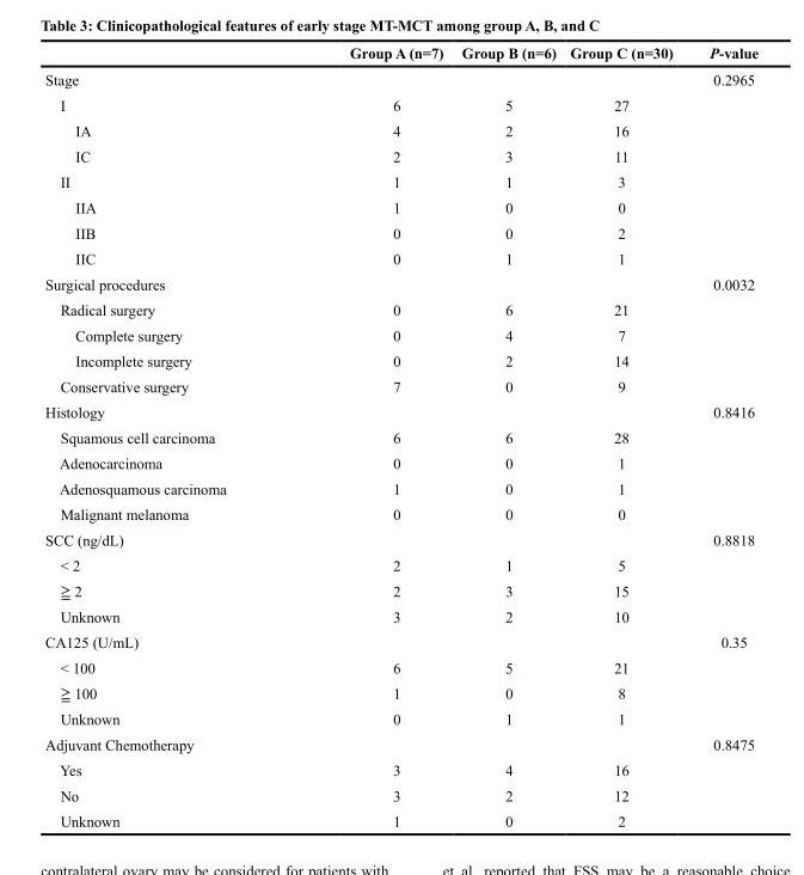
<table><thead><tr><td></td><td>Group A (n=7)</td><td>Group B (n=6)</td><td>Group C (n=30)</td><td>P-value</td></tr></thead><tbody><tr><td>Stage</td><td></td><td></td><td></td><td>0.2965</td></tr><tr><td>I</td><td>6</td><td>5</td><td>27</td><td></td></tr><tr><td>IA</td><td>4</td><td>2</td><td>16</td><td></td></tr><tr><td>IC</td><td>2</td><td>3</td><td>11</td><td></td></tr><tr><td>II</td><td>1</td><td>1</td><td>3</td><td></td></tr><tr><td>IIA</td><td>1</td><td>0</td><td>0</td><td></td></tr><tr><td>IIB</td><td>0</td><td>0</td><td>2</td><td></td></tr><tr><td>IIC</td><td>0</td><td>1</td><td>1</td><td></td></tr><tr><td>Surgical procedures</td><td></td><td></td><td></td><td>0.0032</td></tr><tr><td>Radical surgery</td><td>0</td><td>6</td><td>21</td><td></td></tr><tr><td>Complete surgery</td><td>0</td><td>4</td><td>7</td><td></td></tr><tr><td>Incomplete surgery</td><td>0</td><td>2</td><td>14</td><td></td></tr><tr><td>Conservative surgery</td><td>7</td><td>0</td><td>9</td><td></td></tr><tr><td>Histology</td><td></td><td></td><td></td><td>0.8416</td></tr><tr><td>Squamous cell carcinoma</td><td>6</td><td>6</td><td>28</td><td></td></tr><tr><td>Adenocarcinoma</td><td>0</td><td>0</td><td>1</td><td></td></tr><tr><td>Adenosquamous carcinoma</td><td>1</td><td>0</td><td>1</td><td></td></tr><tr><td>Malignant melanoma</td><td>0</td><td>0</td><td>0</td><td></td></tr><tr><td>SCC (ng/dL)</td><td></td><td></td><td></td><td>0.8818</td></tr><tr><td>&lt; 2</td><td>2</td><td>1</td><td>5</td><td></td></tr><tr><td>≧ 2</td><td>2</td><td>3</td><td>15</td><td></td></tr><tr><td>Unknown</td><td>3</td><td>2</td><td>10</td><td></td></tr><tr><td>CA125 (U/mL)</td><td></td><td></td><td></td><td>0.35</td></tr><tr><td>&lt; 100</td><td>6</td><td>5</td><td>21</td><td></td></tr><tr><td>≧ 100</td><td>1</td><td>0</td><td>8</td><td></td></tr><tr><td>Unknown</td><td>0</td><td>1</td><td>1</td><td></td></tr><tr><td>Adjuvant Chemotherapy</td><td></td><td></td><td></td><td>0.8475</td></tr><tr><td>Yes</td><td>3</td><td>4</td><td>16</td><td></td></tr><tr><td>No</td><td>3</td><td>2</td><td>12</td><td></td></tr><tr><td>Unknown</td><td>1</td><td>0</td><td>2</td><td></td></tr></tbody></table>